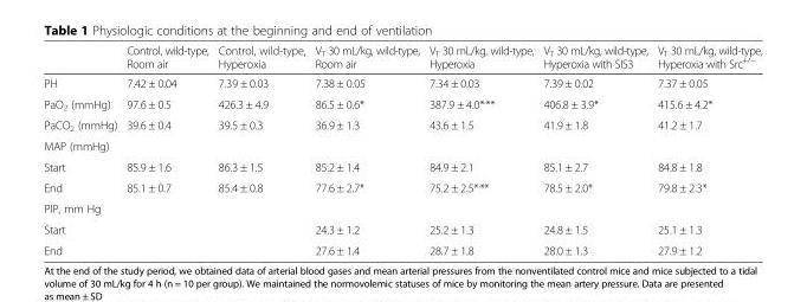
<table><thead><tr><td></td><td>Control, wild-type, Room air</td><td>Control, wild-type, Hyperoxia</td><td>V<sub>T</sub> 30 mL/kg, wild-type, Room air</td><td>V<sub>T</sub> 30 mL/kg, wild-type, Hyperoxia</td><td>V<sub>T</sub> 30 mL/kg, wild-type, Hyperoxia with SIS3</td><td>V<sub>T</sub> 30 mL/kg, wild-type, Hyperoxia with Src<sup>+/−</sup></td></tr></thead><tbody><tr><td>PH</td><td>7.42 ± 0.04</td><td>7.39 ± 0.03</td><td>7.38 ± 0.05</td><td>7.34 ± 0.03</td><td>7.39 ± 0.02</td><td>7.37 ± 0.05</td></tr><tr><td>PaO<sub>2</sub> (mmHg)</td><td>97.6 ± 0.5</td><td>426.3 ± 4.9</td><td>86.5 ± 0.6*</td><td>387.9 ± 4.0*<sup>,</sup>**</td><td>406.8 ± 3.9*</td><td>415.6 ± 4.2*</td></tr><tr><td>PaCO<sub>2</sub> (mmHg)</td><td>39.6 ± 0.4</td><td>39.5 ± 0.3</td><td>36.9 ± 1.3</td><td>43.6 ± 1.5</td><td>41.9 ± 1.8</td><td>41.2 ± 1.7</td></tr><tr><td colspan="7">MAP (mmHg)</td></tr><tr><td>Start</td><td>85.9 ± 1.6</td><td>86.3 ± 1.5</td><td>85.2 ± 1.4</td><td>84.9 ± 2.1</td><td>85.1 ± 2.7</td><td>84.8 ± 1.8</td></tr><tr><td>End</td><td>85.1 ± 0.7</td><td>85.4 ± 0.8</td><td>77.6 ± 2.7*</td><td>75.2 ± 2.5*<sup>,</sup>**</td><td>78.5 ± 2.0*</td><td>79.8 ± 2.3*</td></tr><tr><td colspan="7">PIP, mm Hg</td></tr><tr><td>Start</td><td></td><td></td><td>24.3 ± 1.2</td><td>25.2 ± 1.3</td><td>24.8 ± 1.5</td><td>25.1 ± 1.3</td></tr><tr><td>End</td><td></td><td></td><td>27.6 ± 1.4</td><td>28.7 ± 1.8</td><td>28.0 ± 1.3</td><td>27.9 ± 1.2</td></tr></tbody></table>